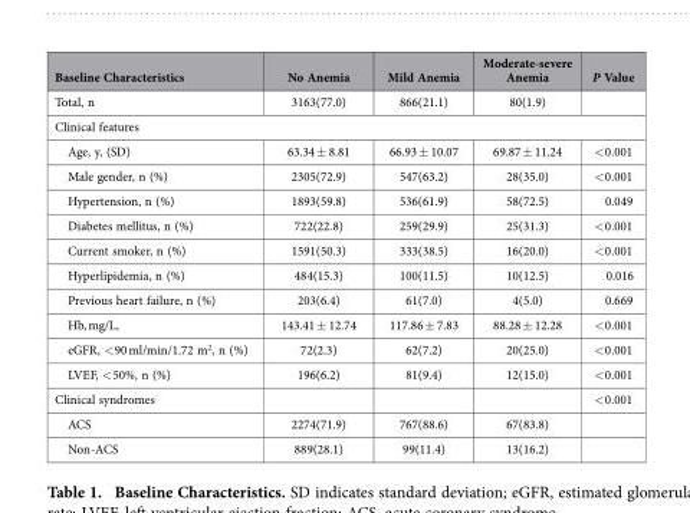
<table><thead><tr><td>Baseline Characteristics</td><td>No Anemia</td><td>Mild Anemia</td><td>Moderate-severe Anemia</td><td>P Value</td></tr></thead><tbody><tr><td>Total, n</td><td>3163(77.0)</td><td>866(21.1)</td><td>80(1.9)</td><td></td></tr><tr><td colspan="5">Clinical features</td></tr><tr><td>Age, y, (SD)</td><td>63.34 ± 8.81</td><td>66.93 ± 10.07</td><td>69.87 ± 11.24</td><td>&lt; 0.001</td></tr><tr><td>Male gender, n (%)</td><td>2305(72.9)</td><td>547(63.2)</td><td>28(35.0)</td><td>&lt; 0.001</td></tr><tr><td>Hypertension, n (%)</td><td>1893(59.8)</td><td>536(61.9)</td><td>58(72.5)</td><td>0.049</td></tr><tr><td>Diabetes mellitus, n (%)</td><td>722(22.8)</td><td>259(29.9)</td><td>25(31.3)</td><td>&lt; 0.001</td></tr><tr><td>Current smoker, n (%)</td><td>1591(50.3)</td><td>333(38.5)</td><td>16(20.0)</td><td>&lt; 0.001</td></tr><tr><td>Hyperlipidemia, n (%)</td><td>484(15.3)</td><td>100(11.5)</td><td>10(12.5)</td><td>0.016</td></tr><tr><td>Previous heart failure, n (%)</td><td>203(6.4)</td><td>61(7.0)</td><td>4(5.0)</td><td>0.669</td></tr><tr><td>Hb, mg/L,</td><td>143.41 ± 12.74</td><td>117.86 ± 7.83</td><td>88.28 ± 12.28</td><td>&lt; 0.001</td></tr><tr><td>eGFR, &lt; 90 ml/min/1.72 m<sup>2</sup>, n (%)</td><td>72(2.3)</td><td>62(7.2)</td><td>20(25.0)</td><td>&lt; 0.001</td></tr><tr><td>LVEF, &lt; 50%, n (%)</td><td>196(6.2)</td><td>81(9.4)</td><td>12(15.0)</td><td>&lt; 0.001</td></tr><tr><td>Clinical syndromes</td><td></td><td></td><td></td><td>&lt; 0.001</td></tr><tr><td>ACS</td><td>2274(71.9)</td><td>767(88.6)</td><td>67(83.8)</td><td></td></tr><tr><td>Non-ACS</td><td>889(28.1)</td><td>99(11.4)</td><td>13(16.2)</td><td></td></tr></tbody></table>